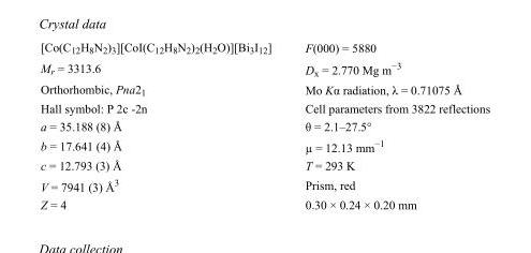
<table><tbody><tr><td>[Co(C<sub>12</sub>H<sub>8</sub>N<sub>2</sub>)<sub>3</sub>][CoI(C<sub>12</sub>H<sub>8</sub>N<sub>2</sub>)<sub>2</sub>(H<sub>2</sub>O)][Bi<sub>3</sub>I<sub>12</sub>]</td><td>F(000) = 5880</td></tr><tr><td>M<sub>r</sub> = 3313.6</td><td>D<sub>x</sub> = 2.770 Mg m<sup>−3</sup></td></tr><tr><td>Orthorhombic, Pna2<sub>1</sub></td><td>Mo Kα radiation, λ = 0.71075 Å</td></tr><tr><td>Hall symbol: P 2c -2n</td><td>Cell parameters from 3822 reflections</td></tr><tr><td>a = 35.188 (8) Å</td><td>θ = 2.1–27.5°</td></tr><tr><td>b = 17.641 (4) Å</td><td>µ = 12.13 mm<sup>−1</sup></td></tr><tr><td>c = 12.793 (3) Å</td><td>T = 293 K</td></tr><tr><td>V = 7941 (3) Å<sup>3</sup></td><td>Prism, red</td></tr><tr><td>Z = 4</td><td>0.30 × 0.24 × 0.20 mm</td></tr></tbody></table>